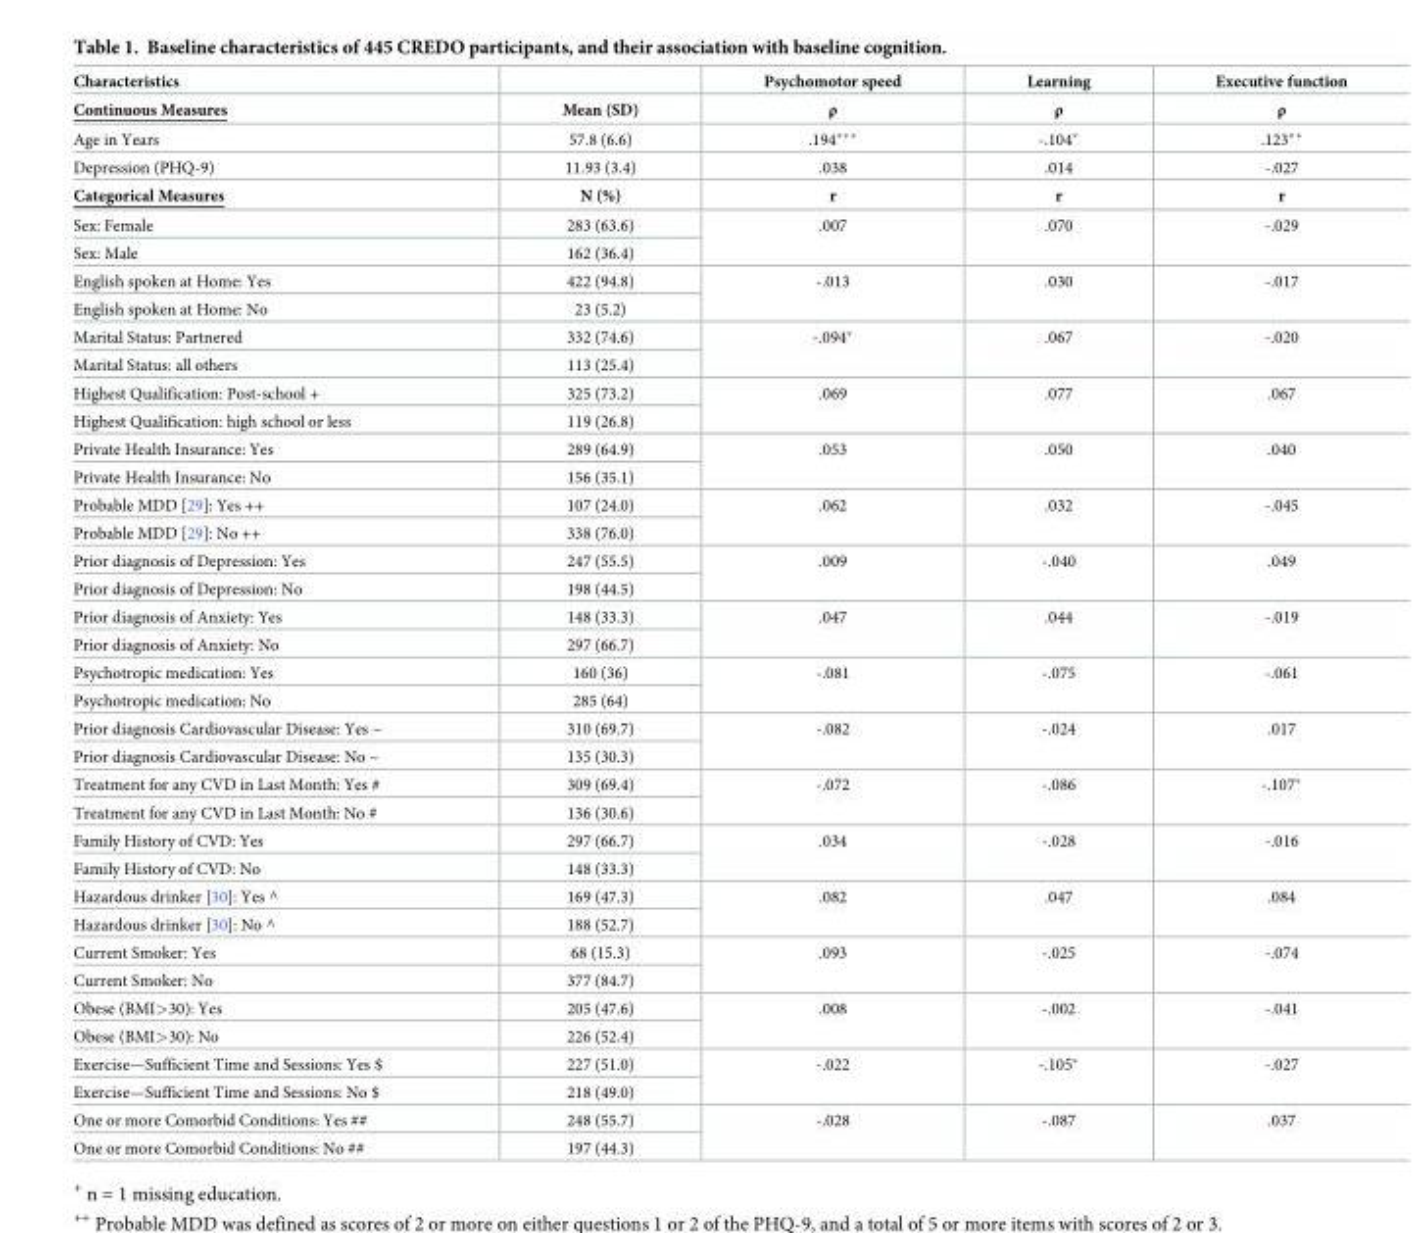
<table><thead><tr><td>Characteristics</td><td></td><td>Psychomotor speed</td><td>Learning</td><td>Executive function</td></tr></thead><tbody><tr><td>Continuous Measures</td><td>Mean (SD)</td><td>ρ</td><td>ρ</td><td>ρ</td></tr><tr><td>Age in Years</td><td>57.8 (6.6)</td><td>.194***</td><td>-.104*</td><td>.123**</td></tr><tr><td>Depression (PHQ-9)</td><td>11.93 (3.4)</td><td>.038</td><td>.014</td><td>-.027</td></tr><tr><td>Categorical Measures</td><td>N (%)</td><td>r</td><td>r</td><td>r</td></tr><tr><td>Sex: Female</td><td>283 (63.6)</td><td rowspan="2">.007</td><td rowspan="2">.070</td><td rowspan="2">-.029</td></tr><tr><td>Sex: Male</td><td>162 (36.4)</td></tr><tr><td>English spoken at Home: Yes</td><td>422 (94.8)</td><td rowspan="2">-.013</td><td rowspan="2">.030</td><td rowspan="2">-.017</td></tr><tr><td>English spoken at Home: No</td><td>23 (5.2)</td></tr><tr><td>Marital Status: Partnered</td><td>332 (74.6)</td><td rowspan="2">-.094*</td><td rowspan="2">.067</td><td rowspan="2">-.020</td></tr><tr><td>Marital Status: all others</td><td>113 (25.4)</td></tr><tr><td>Highest Qualification: Post-school +</td><td>325 (73.2)</td><td rowspan="2">.069</td><td rowspan="2">.077</td><td rowspan="2">.067</td></tr><tr><td>Highest Qualification: high school or less</td><td>119 (26.8)</td></tr><tr><td>Private Health Insurance: Yes</td><td>289 (64.9)</td><td rowspan="2">.053</td><td rowspan="2">.050</td><td rowspan="2">.040</td></tr><tr><td>Private Health Insurance: No</td><td>156 (35.1)</td></tr><tr><td>Probable MDD [29]: Yes ++</td><td>107 (24.0)</td><td rowspan="2">.062</td><td rowspan="2">.032</td><td rowspan="2">-.045</td></tr><tr><td>Probable MDD [29]: No ++</td><td>338 (76.0)</td></tr><tr><td>Prior diagnosis of Depression: Yes</td><td>247 (55.5)</td><td rowspan="2">.009</td><td rowspan="2">-.040</td><td rowspan="2">.049</td></tr><tr><td>Prior diagnosis of Depression: No</td><td>198 (44.5)</td></tr><tr><td>Prior diagnosis of Anxiety: Yes</td><td>148 (33.3)</td><td rowspan="2">.047</td><td rowspan="2">.044</td><td rowspan="2">-.019</td></tr><tr><td>Prior diagnosis of Anxiety: No</td><td>297 (66.7)</td></tr><tr><td>Psychotropic medication: Yes</td><td>160 (36)</td><td rowspan="2">-.081</td><td rowspan="2">-.075</td><td rowspan="2">-.061</td></tr><tr><td>Psychotropic medication: No</td><td>285 (64)</td></tr><tr><td>Prior diagnosis Cardiovascular Disease: Yes ~</td><td>310 (69.7)</td><td rowspan="2">-.082</td><td rowspan="2">-.024</td><td rowspan="2">.017</td></tr><tr><td>Prior diagnosis Cardiovascular Disease: No ~</td><td>135 (30.3)</td></tr><tr><td>Treatment for any CVD in Last Month: Yes #</td><td>309 (69.4)</td><td rowspan="2">-.072</td><td rowspan="2">-.086</td><td rowspan="2">-.107*</td></tr><tr><td>Treatment for any CVD in Last Month: No #</td><td>136 (30.6)</td></tr><tr><td>Family History of CVD: Yes</td><td>297 (66.7)</td><td rowspan="2">.034</td><td rowspan="2">-.028</td><td rowspan="2">-.016</td></tr><tr><td>Family History of CVD: No</td><td>148 (33.3)</td></tr><tr><td>Hazardous drinker [30]: Yes ^</td><td>169 (47.3)</td><td rowspan="2">.082</td><td rowspan="2">.047</td><td rowspan="2">.084</td></tr><tr><td>Hazardous drinker [30]: No ^</td><td>188 (52.7)</td></tr><tr><td>Current Smoker: Yes</td><td>68 (15.3)</td><td rowspan="2">.093</td><td rowspan="2">-.025</td><td rowspan="2">-.074</td></tr><tr><td>Current Smoker: No</td><td>377 (84.7)</td></tr><tr><td>Obese (BMI&gt;30): Yes</td><td>205 (47.6)</td><td rowspan="2">.008</td><td rowspan="2">-.002</td><td rowspan="2">-.041</td></tr><tr><td>Obese (BMI&gt;30): No</td><td>226 (52.4)</td></tr><tr><td>Exercise—Sufficient Time and Sessions: Yes $</td><td>227 (51.0)</td><td rowspan="2">-.022</td><td rowspan="2">-.105*</td><td rowspan="2">-.027</td></tr><tr><td>Exercise—Sufficient Time and Sessions: No $</td><td>218 (49.0)</td></tr><tr><td>One or more Comorbid Conditions: Yes ##</td><td>248 (55.7)</td><td rowspan="2">-.028</td><td rowspan="2">-.087</td><td rowspan="2">.037</td></tr><tr><td>One or more Comorbid Conditions: No ##</td><td>197 (44.3)</td></tr></tbody></table>